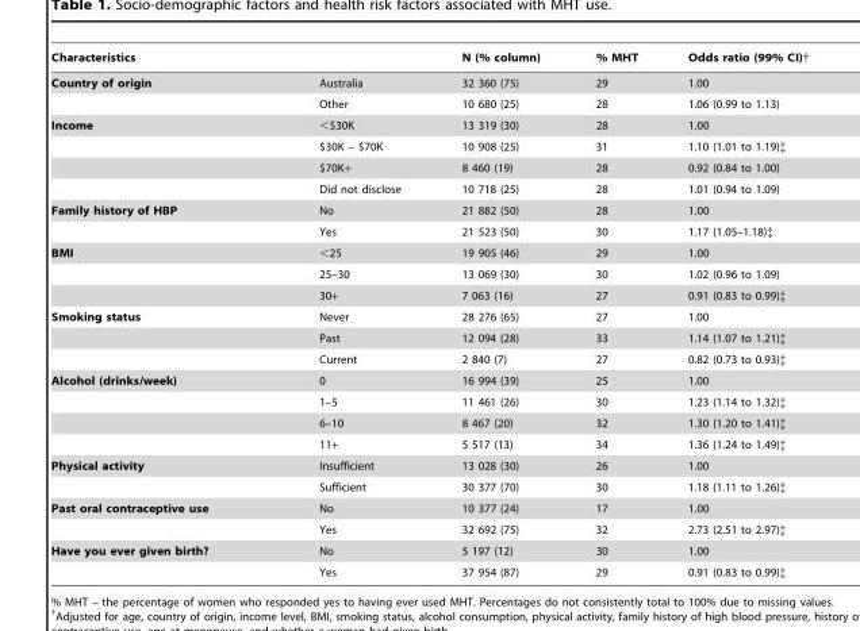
<table><thead><tr><td colspan="2">Characteristics</td><td rowspan="2">N (% column) 32 360 (75)</td><td rowspan="2">% MHT 29</td><td rowspan="2">Odds ratio (99% CI)† 1.00</td></tr><tr><td>Country of origin</td><td>Australia</td></tr></thead><tbody><tr><td></td><td>Other</td><td>10 680 (25)</td><td>28</td><td>1.06 (0.99 to 1.13)</td></tr><tr><td rowspan="4">Income</td><td>&lt;$30K</td><td>13 319 (30)</td><td>28</td><td>1.00</td></tr><tr><td>$30K – $70K</td><td>10 908 (25)</td><td>31</td><td>1.10 (1.01 to 1.19)‡</td></tr><tr><td>$70K+</td><td>8 460 (19)</td><td>28</td><td>0.92 (0.84 to 1.00)</td></tr><tr><td>Did not disclose</td><td>10 718 (25)</td><td>28</td><td>1.01 (0.94 to 1.09)</td></tr><tr><td rowspan="2">Family history of HBP</td><td>No</td><td>21 882 (50)</td><td>28</td><td>1.00</td></tr><tr><td>Yes</td><td>21 523 (50)</td><td>30</td><td>1.17 (1.05–1.18)‡</td></tr><tr><td rowspan="3">BMI</td><td>&lt;25</td><td>19 905 (46)</td><td>29</td><td>1.00</td></tr><tr><td>25–30</td><td>13 069 (30)</td><td>30</td><td>1.02 (0.96 to 1.09)</td></tr><tr><td>30+</td><td>7 063 (16)</td><td>27</td><td>0.91 (0.83 to 0.99)‡</td></tr><tr><td rowspan="3">Smoking status</td><td>Never</td><td>28 276 (65)</td><td>27</td><td>1.00</td></tr><tr><td>Past</td><td>12 094 (28)</td><td>33</td><td>1.14 (1.07 to 1.21)‡</td></tr><tr><td>Current</td><td>2 840 (7)</td><td>27</td><td>0.82 (0.73 to 0.93)‡</td></tr><tr><td rowspan="4">Alcohol (drinks/week)</td><td>0</td><td>16 994 (39)</td><td>25</td><td>1.00</td></tr><tr><td>1–5</td><td>11 461 (26)</td><td>30</td><td>1.23 (1.14 to 1.32)‡</td></tr><tr><td>6–10</td><td>8 467 (20)</td><td>32</td><td>1.30 (1.20 to 1.41)‡</td></tr><tr><td>11+</td><td>5 517 (13)</td><td>34</td><td>1.36 (1.24 to 1.49)‡</td></tr><tr><td rowspan="2">Physical activity</td><td>Insufficient</td><td>13 028 (30)</td><td>26</td><td>1.00</td></tr><tr><td>Sufficient</td><td>30 377 (70)</td><td>30</td><td>1.18 (1.11 to 1.26)‡</td></tr><tr><td rowspan="2">Past oral contraceptive use</td><td>No</td><td>10 377 (24)</td><td>17</td><td>1.00</td></tr><tr><td>Yes</td><td>32 692 (75)</td><td>32</td><td>2.73 (2.51 to 2.97)‡</td></tr><tr><td rowspan="2">Have you ever given birth?</td><td>No</td><td>5 197 (12)</td><td>30</td><td>1.00</td></tr><tr><td>Yes</td><td>37 954 (87)</td><td>29</td><td>0.91 (0.83 to 0.99)‡</td></tr></tbody></table>